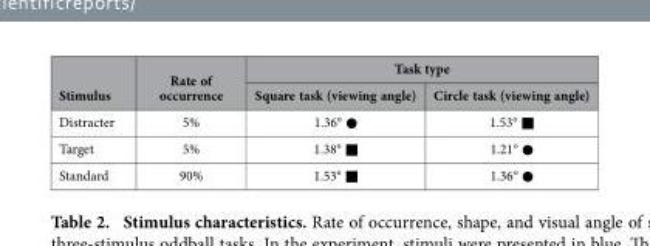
<table><thead><tr><td rowspan="2">Stimulus</td><td rowspan="2">Rate of occurrence</td><td colspan="2">Task type</td></tr><tr><td>Square task (viewing angle)</td><td>Circle task (viewing angle)</td></tr></thead><tbody><tr><td>Distracter</td><td>5%</td><td>1.36° ●</td><td>1.53° ■</td></tr><tr><td>Target</td><td>5%</td><td>1.38° ■</td><td>1.21° ●</td></tr><tr><td>Standard</td><td>90%</td><td>1.53° ■</td><td>1.36° ●</td></tr></tbody></table>